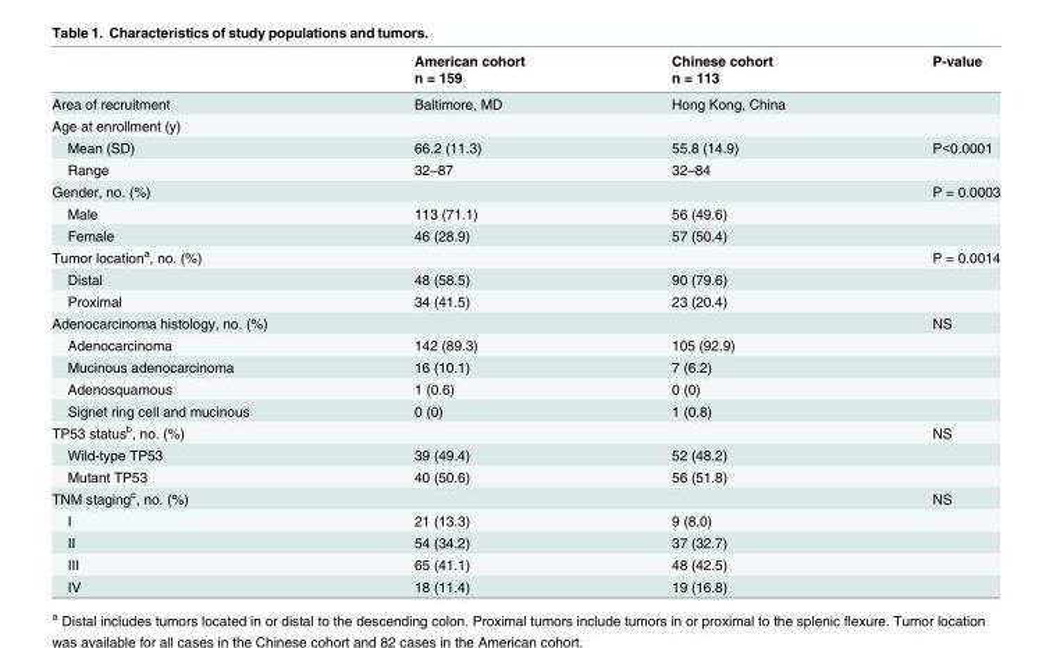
<table><thead><tr><td rowspan="2"></td><td rowspan="2">American cohort n = 159</td><td rowspan="2">Chinese cohort n = 113</td><td rowspan="2">P-value</td></tr><tr></tr></thead><tbody><tr><td>Area of recruitment</td><td>Baltimore, MD</td><td>Hong Kong, China</td><td></td></tr><tr><td colspan="4">Age at enrollment (y)</td></tr><tr><td>Mean (SD)</td><td>66.2 (11.3)</td><td>55.8 (14.9)</td><td>P&lt;0.0001</td></tr><tr><td>Range</td><td>32–87</td><td>32–84</td><td></td></tr><tr><td>Gender, no. (%)</td><td></td><td></td><td>P = 0.0003</td></tr><tr><td>Male</td><td>113 (71.1)</td><td>56 (49.6)</td><td></td></tr><tr><td>Female</td><td>46 (28.9)</td><td>57 (50.4)</td><td></td></tr><tr><td>Tumor location<sup>a</sup>, no. (%)</td><td></td><td></td><td>P = 0.0014</td></tr><tr><td>Distal</td><td>48 (58.5)</td><td>90 (79.6)</td><td></td></tr><tr><td>Proximal</td><td>34 (41.5)</td><td>23 (20.4)</td><td></td></tr><tr><td>Adenocarcinoma histology, no. (%)</td><td></td><td></td><td>NS</td></tr><tr><td>Adenocarcinoma</td><td>142 (89.3)</td><td>105 (92.9)</td><td></td></tr><tr><td>Mucinous adenocarcinoma</td><td>16 (10.1)</td><td>7 (6.2)</td><td></td></tr><tr><td>Adenosquamous</td><td>1 (0.6)</td><td>0 (0)</td><td></td></tr><tr><td>Signet ring cell and mucinous</td><td>0 (0)</td><td>1 (0.8)</td><td></td></tr><tr><td>TP53 status<sup>b</sup>, no. (%)</td><td></td><td></td><td>NS</td></tr><tr><td>Wild-type TP53</td><td>39 (49.4)</td><td>52 (48.2)</td><td></td></tr><tr><td>Mutant TP53</td><td>40 (50.6)</td><td>56 (51.8)</td><td></td></tr><tr><td>TNM staging<sup>c</sup>, no. (%)</td><td></td><td></td><td>NS</td></tr><tr><td>I</td><td>21 (13.3)</td><td>9 (8.0)</td><td></td></tr><tr><td>II</td><td>54 (34.2)</td><td>37 (32.7)</td><td></td></tr><tr><td>III</td><td>65 (41.1)</td><td>48 (42.5)</td><td></td></tr><tr><td>IV</td><td>18 (11.4)</td><td>19 (16.8)</td><td></td></tr></tbody></table>